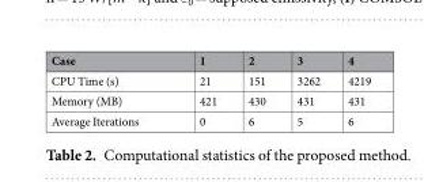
<table><thead><tr><td>Case</td><td>1</td><td>2</td><td>3</td><td>4</td></tr></thead><tbody><tr><td>CPU Time (s)</td><td>21</td><td>151</td><td>3262</td><td>4219</td></tr><tr><td>Memory (MB)</td><td>421</td><td>430</td><td>431</td><td>431</td></tr><tr><td>Average Iterations</td><td>0</td><td>6</td><td>5</td><td>6</td></tr></tbody></table>